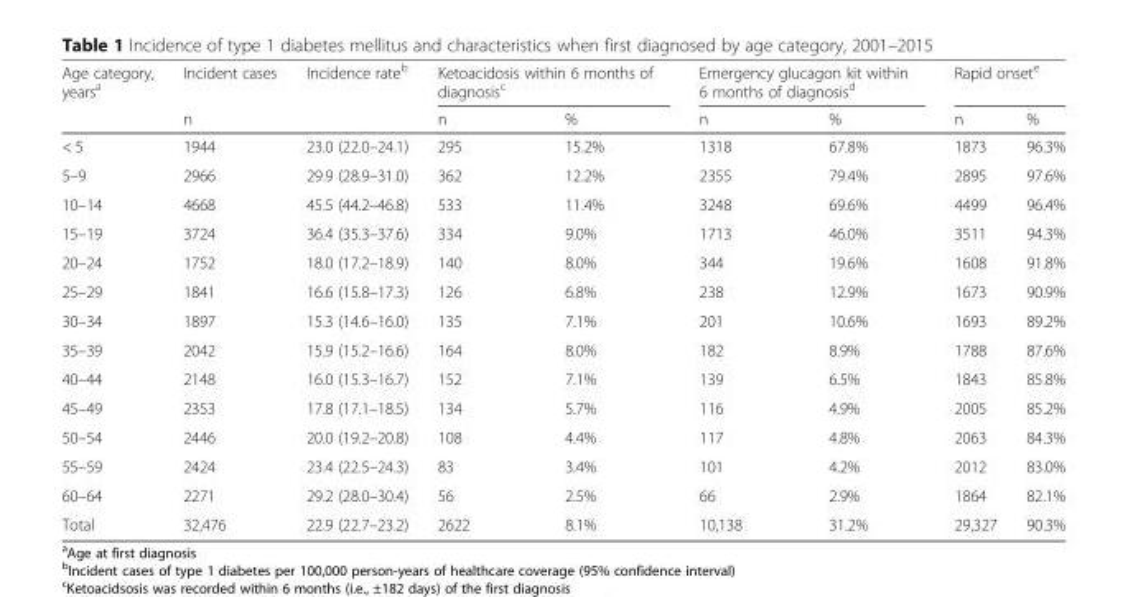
<table><thead><tr><td rowspan="2">Age category, years<sup>a</sup></td><td rowspan="2">Incident cases n</td><td rowspan="2">Incidence rate<sup>b</sup></td><td colspan="2">Ketoacidosis within 6 months of diagnosis<sup>c</sup></td><td colspan="2">Emergency glucagon kit within 6 months of diagnosis<sup>d</sup></td><td colspan="2">Rapid onset<sup>e</sup></td></tr><tr><td>n</td><td>%</td><td>n</td><td>%</td><td>n</td><td>%</td></tr></thead><tbody><tr><td>&lt; 5</td><td>1944</td><td>23.0 (22.0–24.1)</td><td>295</td><td>15.2%</td><td>1318</td><td>67.8%</td><td>1873</td><td>96.3%</td></tr><tr><td>5–9</td><td>2966</td><td>29.9 (28.9–31.0)</td><td>362</td><td>12.2%</td><td>2355</td><td>79.4%</td><td>2895</td><td>97.6%</td></tr><tr><td>10–14</td><td>4668</td><td>45.5 (44.2–46.8)</td><td>533</td><td>11.4%</td><td>3248</td><td>69.6%</td><td>4499</td><td>96.4%</td></tr><tr><td>15–19</td><td>3724</td><td>36.4 (35.3–37.6)</td><td>334</td><td>9.0%</td><td>1713</td><td>46.0%</td><td>3511</td><td>94.3%</td></tr><tr><td>20–24</td><td>1752</td><td>18.0 (17.2–18.9)</td><td>140</td><td>8.0%</td><td>344</td><td>19.6%</td><td>1608</td><td>91.8%</td></tr><tr><td>25–29</td><td>1841</td><td>16.6 (15.8–17.3)</td><td>126</td><td>6.8%</td><td>238</td><td>12.9%</td><td>1673</td><td>90.9%</td></tr><tr><td>30–34</td><td>1897</td><td>15.3 (14.6–16.0)</td><td>135</td><td>7.1%</td><td>201</td><td>10.6%</td><td>1693</td><td>89.2%</td></tr><tr><td>35–39</td><td>2042</td><td>15.9 (15.2–16.6)</td><td>164</td><td>8.0%</td><td>182</td><td>8.9%</td><td>1788</td><td>87.6%</td></tr><tr><td>40–44</td><td>2148</td><td>16.0 (15.3–16.7)</td><td>152</td><td>7.1%</td><td>139</td><td>6.5%</td><td>1843</td><td>85.8%</td></tr><tr><td>45–49</td><td>2353</td><td>17.8 (17.1–18.5)</td><td>134</td><td>5.7%</td><td>116</td><td>4.9%</td><td>2005</td><td>85.2%</td></tr><tr><td>50–54</td><td>2446</td><td>20.0 (19.2–20.8)</td><td>108</td><td>4.4%</td><td>117</td><td>4.8%</td><td>2063</td><td>84.3%</td></tr><tr><td>55–59</td><td>2424</td><td>23.4 (22.5–24.3)</td><td>83</td><td>3.4%</td><td>101</td><td>4.2%</td><td>2012</td><td>83.0%</td></tr><tr><td>60–64</td><td>2271</td><td>29.2 (28.0–30.4)</td><td>56</td><td>2.5%</td><td>66</td><td>2.9%</td><td>1864</td><td>82.1%</td></tr><tr><td>Total</td><td>32,476</td><td>22.9 (22.7–23.2)</td><td>2622</td><td>8.1%</td><td>10,138</td><td>31.2%</td><td>29,327</td><td>90.3%</td></tr></tbody></table>